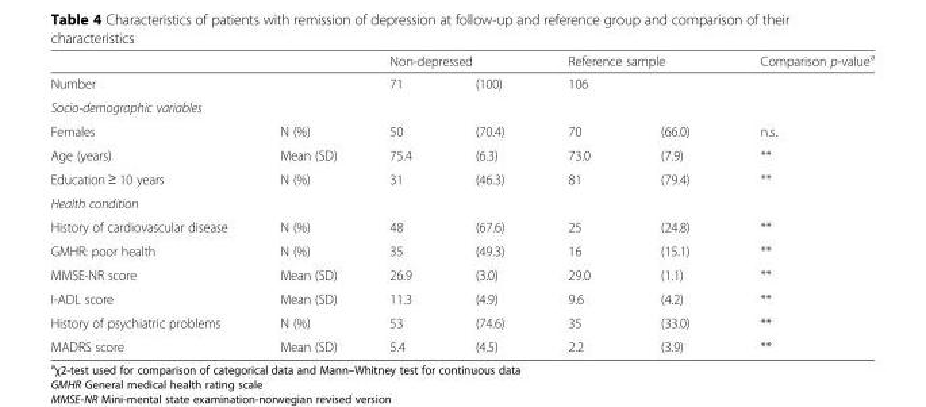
<table><thead><tr><td></td><td></td><td colspan="2">Non-depressed</td><td colspan="2">Reference sample</td><td rowspan="2">Comparison p-value<sup>a</sup></td></tr><tr><td colspan="2">Number</td><td>71</td><td>(100)</td><td>106</td><td></td></tr></thead><tbody><tr><td colspan="7">Socio-demographic variables</td></tr><tr><td>Females</td><td>N (%)</td><td>50</td><td>(70.4)</td><td>70</td><td>(66.0)</td><td>n.s.</td></tr><tr><td>Age (years)</td><td>Mean (SD)</td><td>75.4</td><td>(6.3)</td><td>73.0</td><td>(7.9)</td><td>**</td></tr><tr><td>Education ≥ 10 years</td><td>N (%)</td><td>31</td><td>(46.3)</td><td>81</td><td>(79.4)</td><td>**</td></tr><tr><td colspan="7">Health condition</td></tr><tr><td>History of cardiovascular disease</td><td>N (%)</td><td>48</td><td>(67.6)</td><td>25</td><td>(24.8)</td><td>**</td></tr><tr><td>GMHR: poor health</td><td>N (%)</td><td>35</td><td>(49.3)</td><td>16</td><td>(15.1)</td><td>**</td></tr><tr><td>MMSE-NR score</td><td>Mean (SD)</td><td>26.9</td><td>(3.0)</td><td>29.0</td><td>(1.1)</td><td>**</td></tr><tr><td>I-ADL score</td><td>Mean (SD)</td><td>11.3</td><td>(4.9)</td><td>9.6</td><td>(4.2)</td><td>**</td></tr><tr><td>History of psychiatric problems</td><td>N (%)</td><td>53</td><td>(74.6)</td><td>35</td><td>(33.0)</td><td>**</td></tr><tr><td>MADRS score</td><td>Mean (SD)</td><td>5.4</td><td>(4.5)</td><td>2.2</td><td>(3.9)</td><td>**</td></tr></tbody></table>